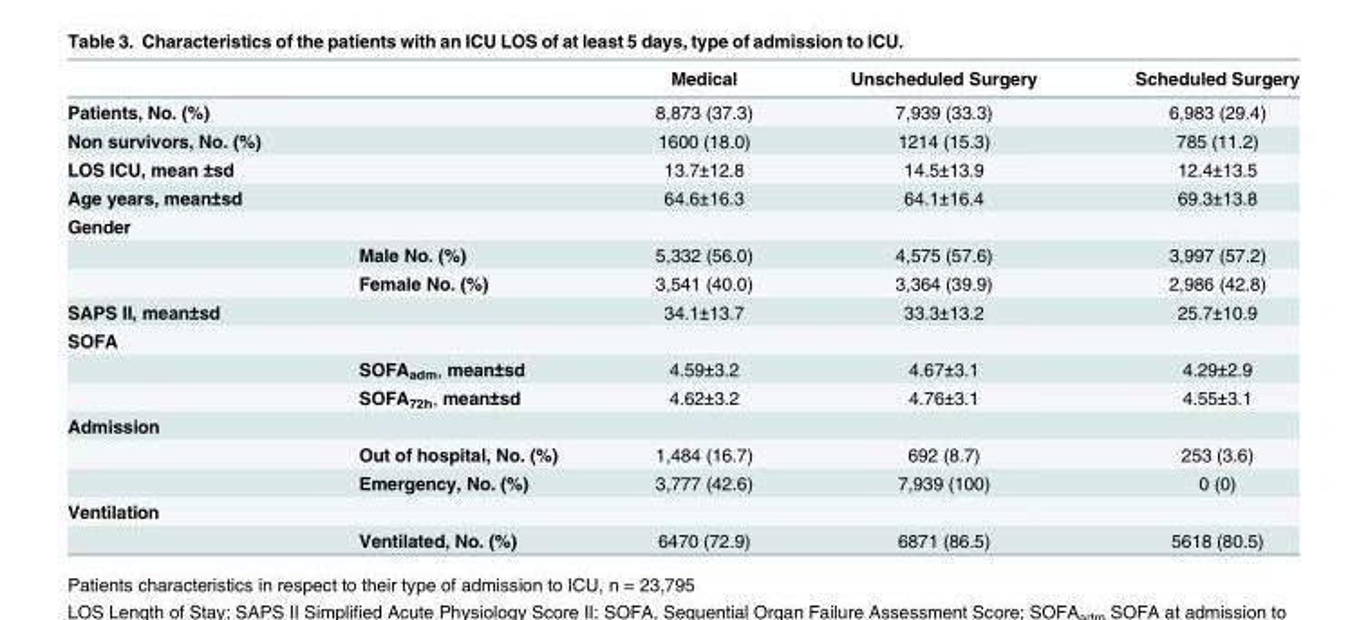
<table><thead><tr><td></td><td></td><td>Medical</td><td>Unscheduled Surgery</td><td>Scheduled Surgery</td></tr></thead><tbody><tr><td>Patients, No. (%)</td><td></td><td>8,873 (37.3)</td><td>7,939 (33.3)</td><td>6,983 (29.4)</td></tr><tr><td>Non survivors, No. (%)</td><td></td><td>1600 (18.0)</td><td>1214 (15.3)</td><td>785 (11.2)</td></tr><tr><td>LOS ICU, mean ±sd</td><td></td><td>13.7±12.8</td><td>14.5±13.9</td><td>12.4±13.5</td></tr><tr><td>Age years, mean±sd</td><td></td><td>64.6±16.3</td><td>64.1±16.4</td><td>69.3±13.8</td></tr><tr><td colspan="5">Gender</td></tr><tr><td></td><td>Male No. (%)</td><td>5,332 (56.0)</td><td>4,575 (57.6)</td><td>3,997 (57.2)</td></tr><tr><td></td><td>Female No. (%)</td><td>3,541 (40.0)</td><td>3,364 (39.9)</td><td>2,986 (42.8)</td></tr><tr><td>SAPS II, mean±sd</td><td></td><td>34.1±13.7</td><td>33.3±13.2</td><td>25.7±10.9</td></tr><tr><td colspan="5">SOFA</td></tr><tr><td></td><td>SOFA<sub>adm</sub>, mean±sd</td><td>4.59±3.2</td><td>4.67±3.1</td><td>4.29±2.9</td></tr><tr><td></td><td>SOFA<sub>72h</sub>, mean±sd</td><td>4.62±3.2</td><td>4.76±3.1</td><td>4.55±3.1</td></tr><tr><td colspan="5">Admission</td></tr><tr><td></td><td>Out of hospital, No. (%)</td><td>1,484 (16.7)</td><td>692 (8.7)</td><td>253 (3.6)</td></tr><tr><td></td><td>Emergency, No. (%)</td><td>3,777 (42.6)</td><td>7,939 (100)</td><td>0 (0)</td></tr><tr><td colspan="5">Ventilation</td></tr><tr><td></td><td>Ventilated, No. (%)</td><td>6470 (72.9)</td><td>6871 (86.5)</td><td>5618 (80.5)</td></tr></tbody></table>